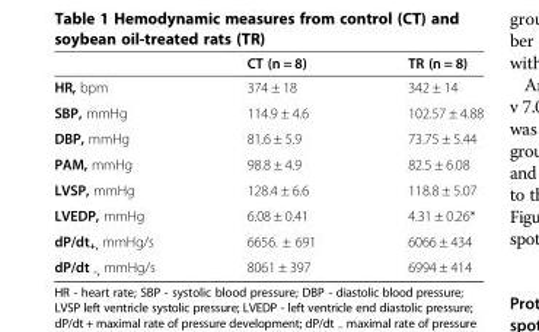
<table><thead><tr><td></td><td>CT (n = 8)</td><td>TR (n = 8)</td></tr></thead><tbody><tr><td>HR, bpm</td><td>374 ± 18</td><td>342 ± 14</td></tr><tr><td>SBP, mmHg</td><td>114.9 ± 4.6</td><td>102.57 ± 4.88</td></tr><tr><td>DBP, mmHg</td><td>81.6 ± 5.9</td><td>73.75 ± 5.44</td></tr><tr><td>PAM, mmHg</td><td>98.8 ± 4.9</td><td>82.5 ± 6.08</td></tr><tr><td>LVSP, mmHg</td><td>128.4 ± 6.6</td><td>118.8 ± 5.07</td></tr><tr><td>LVEDP, mmHg</td><td>6.08 ± 0.41</td><td>4.31 ± 0.26*</td></tr><tr><td>dP/dt<sub>+,</sub> mmHg/s</td><td>6656. ± 691</td><td>6066 ± 434</td></tr><tr><td>dP/dt <sub>-,</sub> mmHg/s</td><td>8061 ± 397</td><td>6994 ± 414</td></tr></tbody></table>